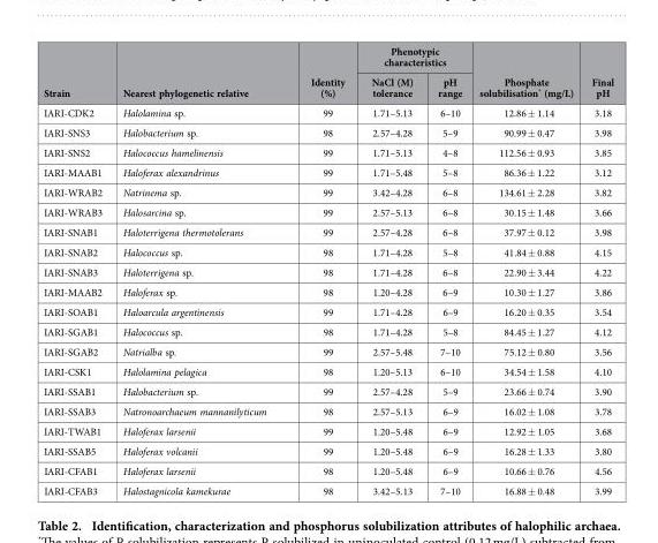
<table><thead><tr><td rowspan="2">Strain</td><td rowspan="2">Nearest phylogenetic relative</td><td rowspan="2">Identity (%)</td><td colspan="2">Phenotypic characteristics</td><td rowspan="2">Phosphate solubilisation* (mg/L)</td><td rowspan="2">Final pH</td></tr><tr><td>NaCl (M) tolerance</td><td>pH range</td></tr></thead><tbody><tr><td>IARI-CDK2</td><td>Halolamina sp.</td><td>99</td><td>1.71–5.13</td><td>6–10</td><td>12.86 ± 1.14</td><td>3.18</td></tr><tr><td>IARI-SNS3</td><td>Halobacterium sp.</td><td>98</td><td>2.57–4.28</td><td>5–9</td><td>90.99 ± 0.47</td><td>3.98</td></tr><tr><td>IARI-SNS2</td><td>Halococcus hamelinensis</td><td>99</td><td>1.71–5.13</td><td>4–8</td><td>112.56 ± 0.93</td><td>3.85</td></tr><tr><td>IARI-MAAB1</td><td>Haloferax alexandrinus</td><td>99</td><td>1.71–5.48</td><td>5–8</td><td>86.36 ± 1.22</td><td>3.12</td></tr><tr><td>IARI-WRAB2</td><td>Natrinema sp.</td><td>99</td><td>3.42–4.28</td><td>6–8</td><td>134.61 ± 2.28</td><td>3.82</td></tr><tr><td>IARI-WRAB3</td><td>Halosarcina sp.</td><td>99</td><td>2.57–5.13</td><td>6–8</td><td>30.15 ± 1.48</td><td>3.66</td></tr><tr><td>IARI-SNAB1</td><td>Haloterrigena thermotolerans</td><td>99</td><td>2.57–4.28</td><td>6–8</td><td>37.97 ± 0.12</td><td>3.98</td></tr><tr><td>IARI-SNAB2</td><td>Halococcus sp.</td><td>98</td><td>1.71–4.28</td><td>5–8</td><td>41.84 ± 0.88</td><td>4.15</td></tr><tr><td>IARI-SNAB3</td><td>Haloterrigena sp.</td><td>98</td><td>1.71–4.28</td><td>6–8</td><td>22.90 ± 3.44</td><td>4.22</td></tr><tr><td>IARI-MAAB2</td><td>Haloferax sp.</td><td>98</td><td>1.20–4.28</td><td>6–9</td><td>10.30 ± 1.27</td><td>3.86</td></tr><tr><td>IARI-SOAB1</td><td>Haloarcula argentinensis</td><td>99</td><td>1.71–4.28</td><td>6–9</td><td>16.20 ± 0.35</td><td>3.54</td></tr><tr><td>IARI-SGAB1</td><td>Halococcus sp.</td><td>98</td><td>1.71–4.28</td><td>5–8</td><td>84.45 ± 1.27</td><td>4.12</td></tr><tr><td>IARI-SGAB2</td><td>Natrialba sp.</td><td>99</td><td>2.57–5.48</td><td>7–10</td><td>75.12 ± 0.80</td><td>3.56</td></tr><tr><td>IARI-CSK1</td><td>Halolamina pelagica</td><td>98</td><td>1.20–5.13</td><td>6–10</td><td>34.54 ± 1.58</td><td>4.10</td></tr><tr><td>IARI-SSAB1</td><td>Halobacterium sp.</td><td>99</td><td>2.57–4.28</td><td>5–9</td><td>23.66 ± 0.74</td><td>3.90</td></tr><tr><td>IARI-SSAB3</td><td>Natronoarchaeum mannanilyticum</td><td>98</td><td>2.57–5.13</td><td>6–9</td><td>16.02 ± 1.08</td><td>3.78</td></tr><tr><td>IARI-TWAB1</td><td>Haloferax larsenii</td><td>99</td><td>1.20–5.48</td><td>6–9</td><td>12.92 ± 1.05</td><td>3.68</td></tr><tr><td>IARI-SSAB5</td><td>Haloferax volcanii</td><td>99</td><td>1.20–5.48</td><td>6–9</td><td>16.28 ± 1.33</td><td>3.80</td></tr><tr><td>IARI-CFAB1</td><td>Haloferax larsenii</td><td>98</td><td>1.20–5.48</td><td>6–9</td><td>10.66 ± 0.76</td><td>4.56</td></tr><tr><td>IARI-CFAB3</td><td>Halostagnicola kamekurae</td><td>98</td><td>3.42–5.13</td><td>7–10</td><td>16.88 ± 0.48</td><td>3.99</td></tr></tbody></table>